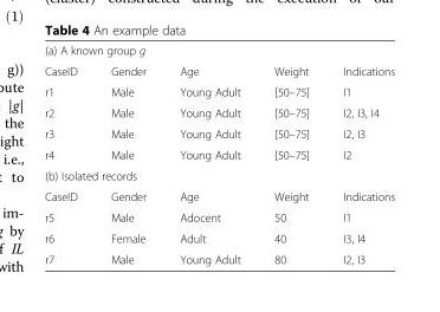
<table><tbody><tr><td colspan="5">(a) A known group g</td></tr><tr><td>CaseID</td><td>Gender</td><td>Age</td><td>Weight</td><td>Indications</td></tr><tr><td>r1</td><td>Male</td><td>Young Adult</td><td>[50–75]</td><td>I1</td></tr><tr><td>r2</td><td>Male</td><td>Young Adult</td><td>[50–75]</td><td>I2, I3, I4</td></tr><tr><td>r3</td><td>Male</td><td>Young Adult</td><td>[50–75]</td><td>I2, I3</td></tr><tr><td>r4</td><td>Male</td><td>Young Adult</td><td>[50–75]</td><td>I2</td></tr><tr><td colspan="5">(b) Isolated records</td></tr><tr><td>CaseID</td><td>Gender</td><td>Age</td><td>Weight</td><td>Indications</td></tr><tr><td>r5</td><td>Male</td><td>Adocent</td><td>50</td><td>I1</td></tr><tr><td>r6</td><td>Female</td><td>Adult</td><td>40</td><td>I3, I4</td></tr><tr><td>r7</td><td>Male</td><td>Young Adult</td><td>80</td><td>I2, I3</td></tr></tbody></table>